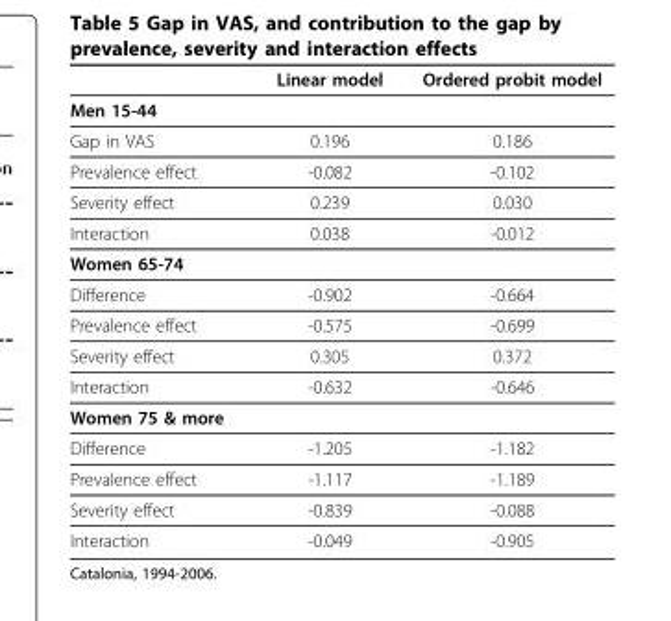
<table><thead><tr><td></td><td>Linear model</td><td>Ordered probit model</td></tr></thead><tbody><tr><td colspan="3">Men 15-44</td></tr><tr><td>Gap in VAS</td><td>0.196</td><td>0.186</td></tr><tr><td>Prevalence effect</td><td>-0.082</td><td>-0.102</td></tr><tr><td>Severity effect</td><td>0.239</td><td>0.030</td></tr><tr><td>Interaction</td><td>0.038</td><td>-0.012</td></tr><tr><td colspan="3">Women 65-74</td></tr><tr><td>Difference</td><td>-0.902</td><td>-0.664</td></tr><tr><td>Prevalence effect</td><td>-0.575</td><td>-0.699</td></tr><tr><td>Severity effect</td><td>0.305</td><td>0.372</td></tr><tr><td>Interaction</td><td>-0.632</td><td>-0.646</td></tr><tr><td colspan="3">Women 75 &amp; more</td></tr><tr><td>Difference</td><td>-1.205</td><td>-1.182</td></tr><tr><td>Prevalence effect</td><td>-1.117</td><td>-1.189</td></tr><tr><td>Severity effect</td><td>-0.839</td><td>-0.088</td></tr><tr><td>Interaction</td><td>-0.049</td><td>-0.905</td></tr></tbody></table>